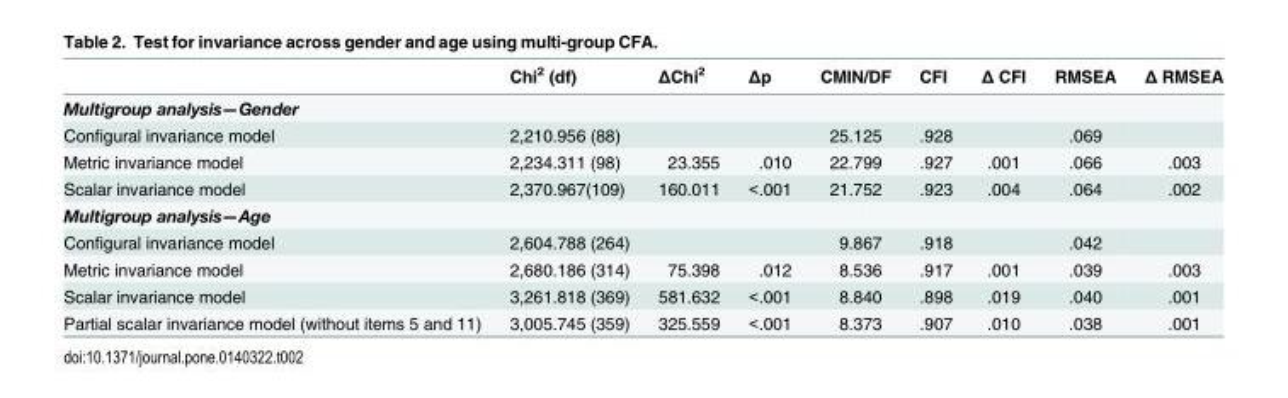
<table><thead><tr><td></td><td>Chi<sup>2</sup> (df)</td><td>ΔChi<sup>2</sup></td><td>Δp</td><td>CMIN/DF</td><td>CFI</td><td>Δ CFI</td><td>RMSEA</td><td>Δ RMSEA</td></tr></thead><tbody><tr><td colspan="9">Multigroup analysis—Gender</td></tr><tr><td>Configural invariance model</td><td>2,210.956 (88)</td><td></td><td></td><td>25.125</td><td>.928</td><td></td><td>.069</td><td></td></tr><tr><td>Metric invariance model</td><td>2,234.311 (98)</td><td>23.355</td><td>.010</td><td>22.799</td><td>.927</td><td>.001</td><td>.066</td><td>.003</td></tr><tr><td>Scalar invariance model</td><td>2,370.967(109)</td><td>160.011</td><td>&lt;.001</td><td>21.752</td><td>.923</td><td>.004</td><td>.064</td><td>.002</td></tr><tr><td colspan="9">Multigroup analysis—Age</td></tr><tr><td>Configural invariance model</td><td>2,604.788 (264)</td><td></td><td></td><td>9.867</td><td>.918</td><td></td><td>.042</td><td></td></tr><tr><td>Metric invariance model</td><td>2,680.186 (314)</td><td>75.398</td><td>.012</td><td>8.536</td><td>.917</td><td>.001</td><td>.039</td><td>.003</td></tr><tr><td>Scalar invariance model</td><td>3,261.818 (369)</td><td>581.632</td><td>&lt;.001</td><td>8.840</td><td>.898</td><td>.019</td><td>.040</td><td>.001</td></tr><tr><td>Partial scalar invariance model (without items 5 and 11)</td><td>3,005.745 (359)</td><td>325.559</td><td>&lt;.001</td><td>8.373</td><td>.907</td><td>.010</td><td>.038</td><td>.001</td></tr></tbody></table>